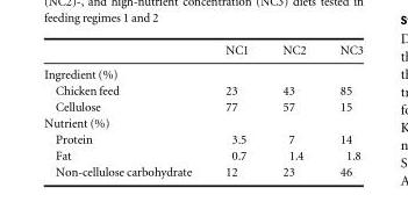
<table><thead><tr><td></td><td>NC1</td><td>NC2</td><td>NC3</td></tr></thead><tbody><tr><td colspan="4">Ingredient (%)</td></tr><tr><td>Chicken feed</td><td>23</td><td>43</td><td>85</td></tr><tr><td>Cellulose</td><td>77</td><td>57</td><td>15</td></tr><tr><td colspan="4">Nutrient (%)</td></tr><tr><td>Protein</td><td>3.5</td><td>7</td><td>14</td></tr><tr><td>Fat</td><td>0.7</td><td>1.4</td><td>1.8</td></tr><tr><td>Non-cellulose carbohydrate</td><td>12</td><td>23</td><td>46</td></tr></tbody></table>